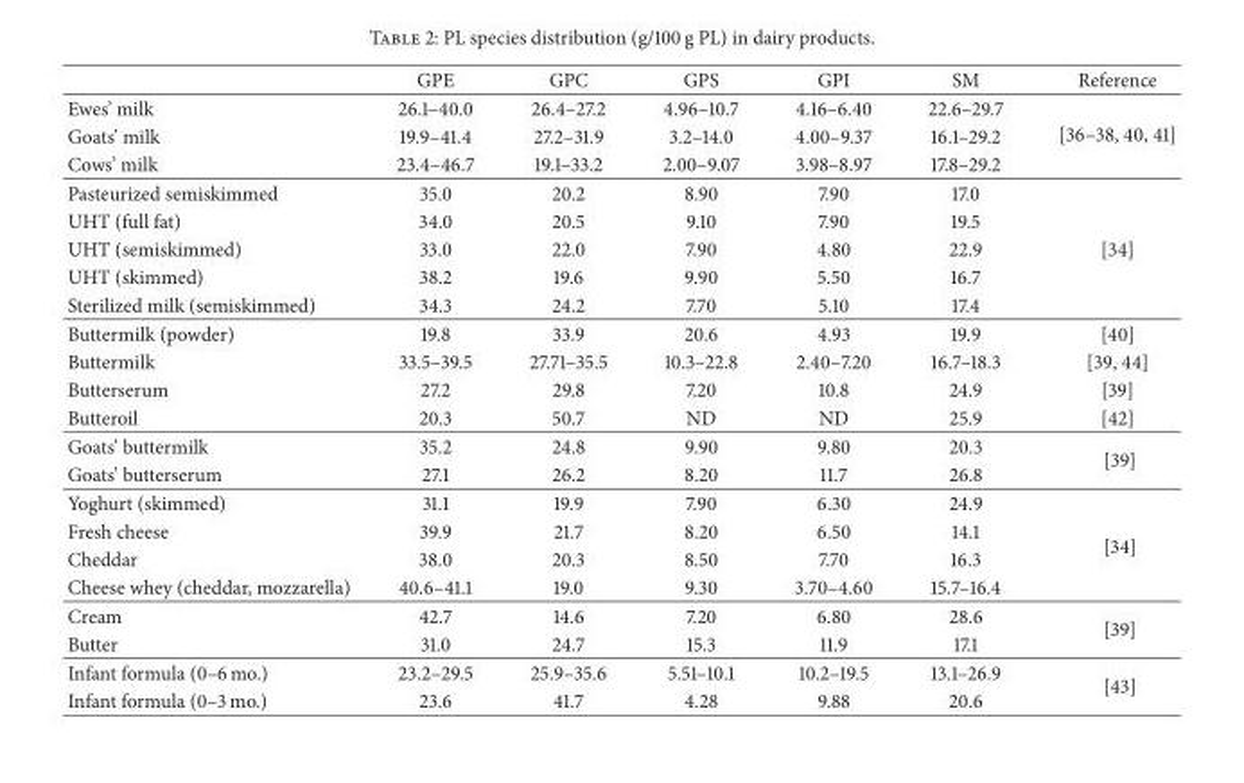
<table><thead><tr><td></td><td>GPE</td><td>GPC</td><td>GPS</td><td>GPI</td><td>SM</td><td>Reference</td></tr></thead><tbody><tr><td>Ewes’ milk</td><td>26.1–40.0</td><td>26.4–27.2</td><td>4.96–10.7</td><td>4.16–6.40</td><td>22.6–29.7</td><td rowspan="3">[36–38, 40, 41]</td></tr><tr><td>Goats’ milk</td><td>19.9–41.4</td><td>27.2–31.9</td><td>3.2–14.0</td><td>4.00–9.37</td><td>16.1–29.2</td></tr><tr><td>Cows’ milk</td><td>23.4–46.7</td><td>19.1–33.2</td><td>2.00–9.07</td><td>3.98–8.97</td><td>17.8–29.2</td></tr><tr><td>Pasteurized semiskimmed</td><td>35.0</td><td>20.2</td><td>8.90</td><td>7.90</td><td>17.0</td><td rowspan="5">[34]</td></tr><tr><td>UHT (full fat)</td><td>34.0</td><td>20.5</td><td>9.10</td><td>7.90</td><td>19.5</td></tr><tr><td>UHT (semiskimmed)</td><td>33.0</td><td>22.0</td><td>7.90</td><td>4.80</td><td>22.9</td></tr><tr><td>UHT (skimmed)</td><td>38.2</td><td>19.6</td><td>9.90</td><td>5.50</td><td>16.7</td></tr><tr><td>Sterilized milk (semiskimmed)</td><td>34.3</td><td>24.2</td><td>7.70</td><td>5.10</td><td>17.4</td></tr><tr><td>Buttermilk (powder)</td><td>19.8</td><td>33.9</td><td>20.6</td><td>4.93</td><td>19.9</td><td>[40]</td></tr><tr><td>Buttermilk</td><td>33.5–39.5</td><td>27.71–35.5</td><td>10.3–22.8</td><td>2.40–7.20</td><td>16.7–18.3</td><td>[39, 44]</td></tr><tr><td>Butterserum</td><td>27.2</td><td>29.8</td><td>7.20</td><td>10.8</td><td>24.9</td><td>[39]</td></tr><tr><td>Butteroil</td><td>20.3</td><td>50.7</td><td>ND</td><td>ND</td><td>25.9</td><td>[42]</td></tr><tr><td>Goats’ buttermilk</td><td>35.2</td><td>24.8</td><td>9.90</td><td>9.80</td><td>20.3</td><td rowspan="2">[39]</td></tr><tr><td>Goats’ butterserum</td><td>27.1</td><td>26.2</td><td>8.20</td><td>11.7</td><td>26.8</td></tr><tr><td>Yoghurt (skimmed)</td><td>31.1</td><td>19.9</td><td>7.90</td><td>6.30</td><td>24.9</td><td rowspan="4">[34]</td></tr><tr><td>Fresh cheese</td><td>39.9</td><td>21.7</td><td>8.20</td><td>6.50</td><td>14.1</td></tr><tr><td>Cheddar</td><td>38.0</td><td>20.3</td><td>8.50</td><td>7.70</td><td>16.3</td></tr><tr><td>Cheese whey (cheddar, mozzarella)</td><td>40.6–41.1</td><td>19.0</td><td>9.30</td><td>3.70–4.60</td><td>15.7–16.4</td></tr><tr><td>Cream</td><td>42.7</td><td>14.6</td><td>7.20</td><td>6.80</td><td>28.6</td><td rowspan="2">[39]</td></tr><tr><td>Butter</td><td>31.0</td><td>24.7</td><td>15.3</td><td>11.9</td><td>17.1</td></tr><tr><td>Infant formula (0–6 mo.)</td><td>23.2–29.5</td><td>25.9–35.6</td><td>5.51–10.1</td><td>10.2–19.5</td><td>13.1–26.9</td><td rowspan="2">[43]</td></tr><tr><td>Infant formula (0–3 mo.)</td><td>23.6</td><td>41.7</td><td>4.28</td><td>9.88</td><td>20.6</td></tr></tbody></table>